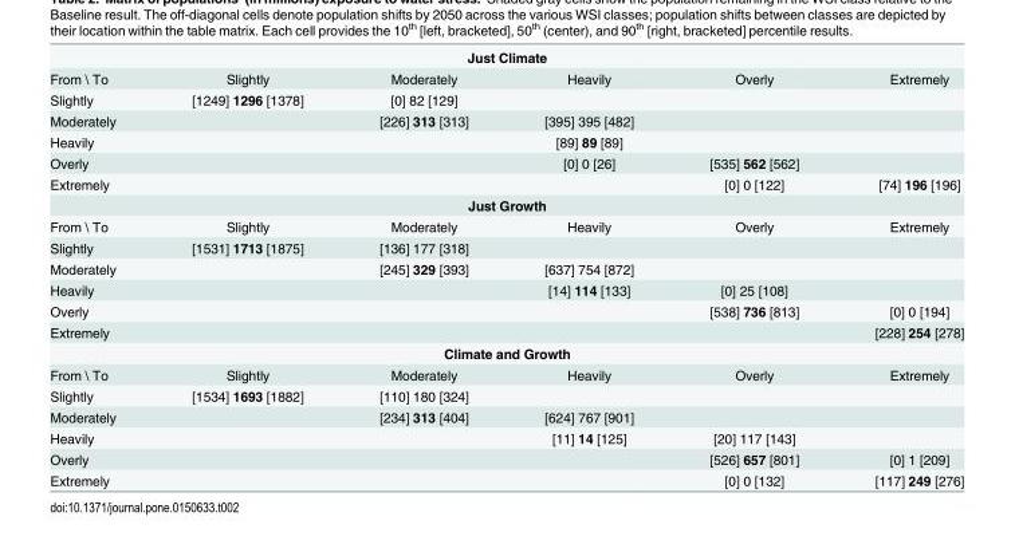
<table><tbody><tr><td colspan="6">Just Climate</td></tr><tr><td>From \ To</td><td>Slightly</td><td>Moderately</td><td>Heavily</td><td>Overly</td><td>Extremely</td></tr><tr><td>Slightly</td><td>[1249] 1296 [1378]</td><td>[0] 82 [129]</td><td></td><td></td><td></td></tr><tr><td>Moderately</td><td></td><td>[226] 313 [313]</td><td>[395] 395 [482]</td><td></td><td></td></tr><tr><td>Heavily</td><td></td><td></td><td>[89] 89 [89]</td><td></td><td></td></tr><tr><td>Overly</td><td></td><td></td><td>[0] 0 [26]</td><td>[535] 562 [562]</td><td></td></tr><tr><td>Extremely</td><td></td><td></td><td></td><td>[0] 0 [122]</td><td>[74] 196 [196]</td></tr><tr><td colspan="6">Just Growth</td></tr><tr><td>From \ To</td><td>Slightly</td><td>Moderately</td><td>Heavily</td><td>Overly</td><td>Extremely</td></tr><tr><td>Slightly</td><td>[1531] 1713 [1875]</td><td>[136] 177 [318]</td><td></td><td></td><td></td></tr><tr><td>Moderately</td><td></td><td>[245] 329 [393]</td><td>[637] 754 [872]</td><td></td><td></td></tr><tr><td>Heavily</td><td></td><td></td><td>[14] 114 [133]</td><td>[0] 25 [108]</td><td></td></tr><tr><td>Overly</td><td></td><td></td><td></td><td>[538] 736 [813]</td><td>[0] 0 [194]</td></tr><tr><td>Extremely</td><td></td><td></td><td></td><td></td><td>[228] 254 [278]</td></tr><tr><td colspan="6">Climate and Growth</td></tr><tr><td>From \ To</td><td>Slightly</td><td>Moderately</td><td>Heavily</td><td>Overly</td><td>Extremely</td></tr><tr><td>Slightly</td><td>[1534] 1693 [1882]</td><td>[110] 180 [324]</td><td></td><td></td><td></td></tr><tr><td>Moderately</td><td></td><td>[234] 313 [404]</td><td>[624] 767 [901]</td><td></td><td></td></tr><tr><td>Heavily</td><td></td><td></td><td>[11] 14 [125]</td><td>[20] 117 [143]</td><td></td></tr><tr><td>Overly</td><td></td><td></td><td></td><td>[526] 657 [801]</td><td>[0] 1 [209]</td></tr><tr><td>Extremely</td><td></td><td></td><td></td><td>[0] 0 [132]</td><td>[117] 249 [276]</td></tr></tbody></table>